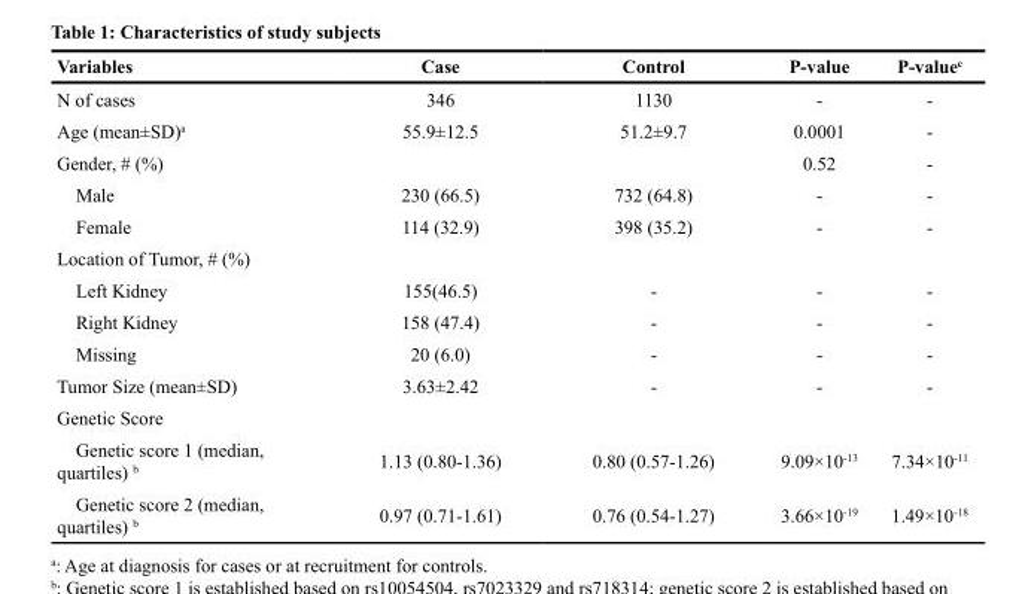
<table><thead><tr><td>Variables</td><td>Case</td><td>Control</td><td>P-value</td><td>P-value<sup>c</sup></td></tr></thead><tbody><tr><td>N of cases</td><td>346</td><td>1130</td><td>-</td><td>-</td></tr><tr><td>Age (mean±SD)<sup>a</sup></td><td>55.9±12.5</td><td>51.2±9.7</td><td>0.0001</td><td>-</td></tr><tr><td>Gender, # (%)</td><td></td><td></td><td>0.52</td><td>-</td></tr><tr><td>Male</td><td>230 (66.5)</td><td>732 (64.8)</td><td>-</td><td>-</td></tr><tr><td>Female</td><td>114 (32.9)</td><td>398 (35.2)</td><td>-</td><td>-</td></tr><tr><td colspan="5">Location of Tumor, # (%)</td></tr><tr><td>Left Kidney</td><td>155(46.5)</td><td>-</td><td>-</td><td>-</td></tr><tr><td>Right Kidney</td><td>158 (47.4)</td><td>-</td><td>-</td><td>-</td></tr><tr><td>Missing</td><td>20 (6.0)</td><td>-</td><td>-</td><td>-</td></tr><tr><td>Tumor Size (mean±SD)</td><td>3.63±2.42</td><td>-</td><td>-</td><td>-</td></tr><tr><td colspan="5">Genetic Score</td></tr><tr><td>Genetic score 1 (median, quartiles) <sup>b</sup></td><td>1.13 (0.80-1.36)</td><td>0.80 (0.57-1.26)</td><td>9.09×10<sup>-13</sup></td><td>7.34×10<sup>-11</sup></td></tr><tr><td>Genetic score 2 (median, quartiles) <sup>b</sup></td><td>0.97 (0.71-1.61)</td><td>0.76 (0.54-1.27)</td><td>3.66×10<sup>-19</sup></td><td>1.49×10<sup>-18</sup></td></tr></tbody></table>